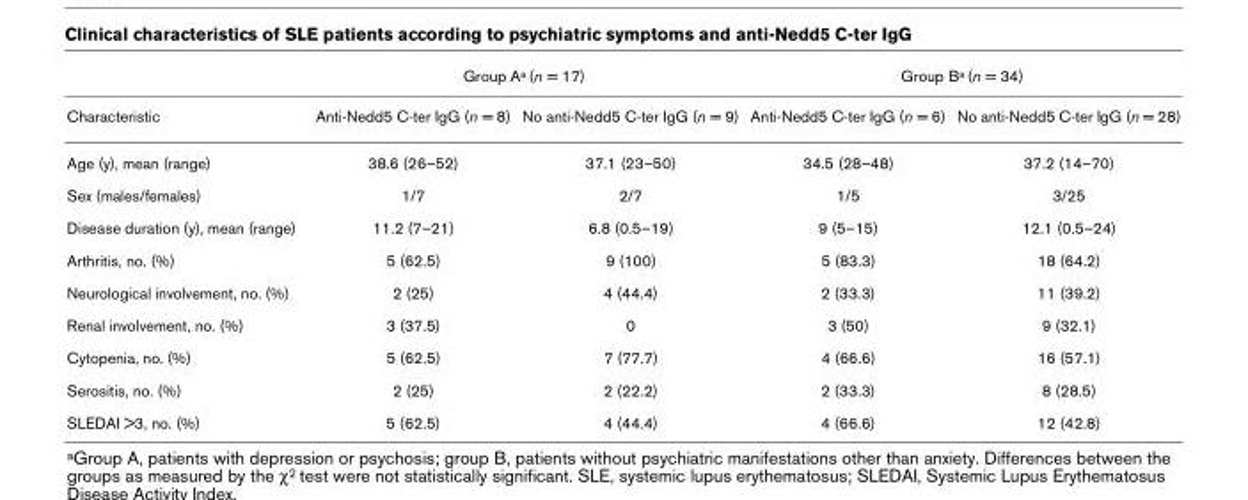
<table><thead><tr><td rowspan="2">Characteristic</td><td colspan="2">Group Aa (n = 17)</td><td colspan="2">Group Ba (n = 34)</td></tr><tr><td>Anti-Nedd5 C-ter IgG (n = 8)</td><td>No anti-Nedd5 C-ter IgG (n = 9)</td><td>Anti-Nedd5 C-ter IgG (n = 6)</td><td>No anti-Nedd5 C-ter IgG (n = 28)</td></tr></thead><tbody><tr><td>Age (y), mean (range)</td><td>38.6 (26–52)</td><td>37.1 (23–50)</td><td>34.5 (28–48)</td><td>37.2 (14–70)</td></tr><tr><td>Sex (males/females)</td><td>1/7</td><td>2/7</td><td>1/5</td><td>3/25</td></tr><tr><td>Disease duration (y), mean (range)</td><td>11.2 (7–21)</td><td>6.8 (0.5–19)</td><td>9 (5–15)</td><td>12.1 (0.5–24)</td></tr><tr><td>Arthritis, no. (%)</td><td>5 (62.5)</td><td>9 (100)</td><td>5 (83.3)</td><td>18 (64.2)</td></tr><tr><td>Neurological involvement, no. (%)</td><td>2 (25)</td><td>4 (44.4)</td><td>2 (33.3)</td><td>11 (39.2)</td></tr><tr><td>Renal involvement, no. (%)</td><td>3 (37.5)</td><td>0</td><td>3 (50)</td><td>9 (32.1)</td></tr><tr><td>Cytopenia, no. (%)</td><td>5 (62.5)</td><td>7 (77.7)</td><td>4 (66.6)</td><td>16 (57.1)</td></tr><tr><td>Serositis, no. (%)</td><td>2 (25)</td><td>2 (22.2)</td><td>2 (33.3)</td><td>8 (28.5)</td></tr><tr><td>SLEDAI &gt;3, no. (%)</td><td>5 (62.5)</td><td>4 (44.4)</td><td>4 (66.6)</td><td>12 (42.8)</td></tr></tbody></table>